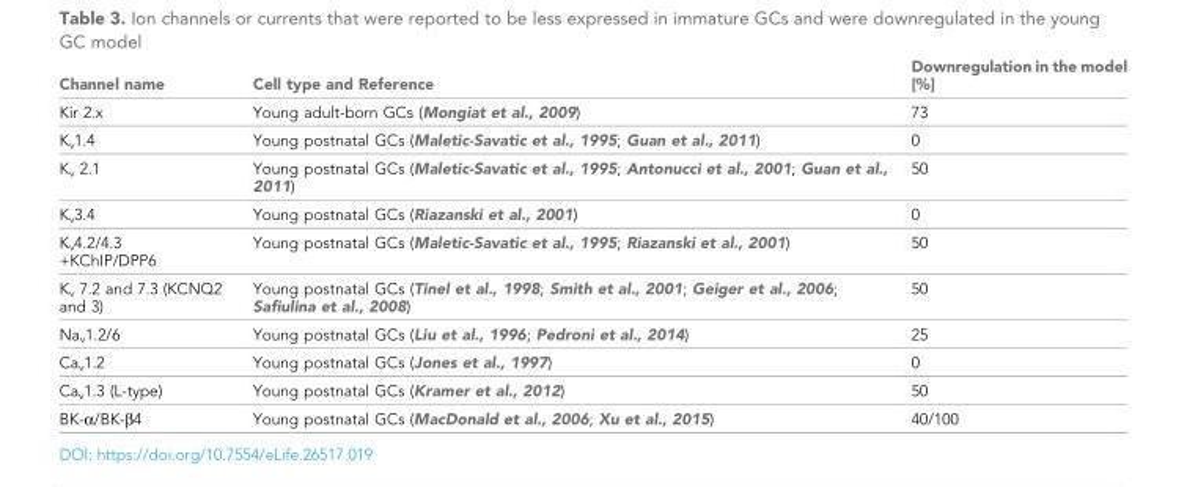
<table><thead><tr><td>Channel name</td><td>Cell type and Reference</td><td>Downregulation in the model [%]</td></tr></thead><tbody><tr><td>Kir 2.x</td><td>Young adult-born GCs (Mongiat et al., 2009)</td><td>73</td></tr><tr><td>K<sub>v</sub>1.4</td><td>Young postnatal GCs (Maletic-Savatic et al., 1995; Guan et al., 2011)</td><td>0</td></tr><tr><td>K<sub>v</sub> 2.1</td><td>Young postnatal GCs (Maletic-Savatic et al., 1995; Antonucci et al., 2001; Guan et al., 2011)</td><td>50</td></tr><tr><td>K<sub>v</sub>3.4</td><td>Young postnatal GCs (Riazanski et al., 2001)</td><td>0</td></tr><tr><td>K<sub>v</sub>4.2/4.3 +KChIP/DPP6</td><td>Young postnatal GCs (Maletic-Savatic et al., 1995; Riazanski et al., 2001)</td><td>50</td></tr><tr><td>K<sub>v</sub> 7.2 and 7.3 (KCNQ2 and 3)</td><td>Young postnatal GCs (Tinel et al., 1998; Smith et al., 2001; Geiger et al., 2006; Safiulina et al., 2008)</td><td>50</td></tr><tr><td>Na<sub>v</sub>1.2/6</td><td>Young postnatal GCs (Liu et al., 1996; Pedroni et al., 2014)</td><td>25</td></tr><tr><td>Ca<sub>v</sub>1.2</td><td>Young postnatal GCs (Jones et al., 1997)</td><td>0</td></tr><tr><td>Ca<sub>v</sub>1.3 (L-type)</td><td>Young postnatal GCs (Kramer et al., 2012)</td><td>50</td></tr><tr><td>BK-α/BK-β4</td><td>Young postnatal GCs (MacDonald et al., 2006; Xu et al., 2015)</td><td>40/100</td></tr></tbody></table>